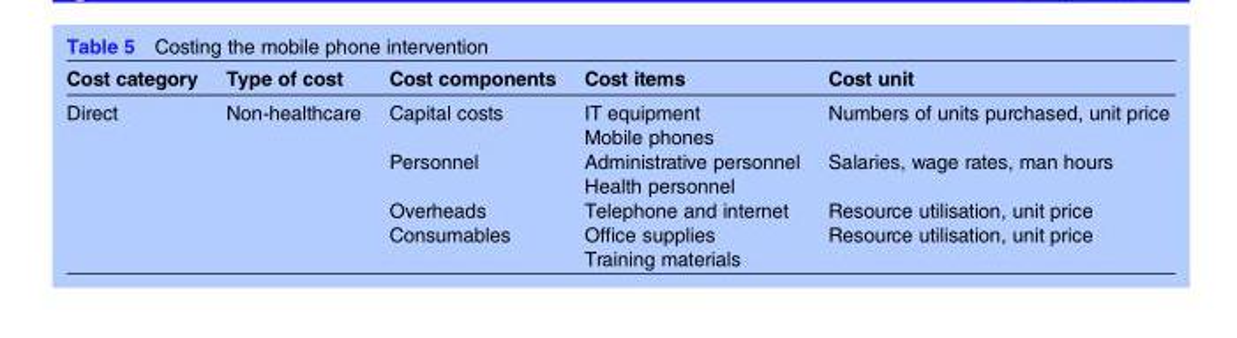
<table><thead><tr><td>Cost category</td><td>Type of cost</td><td>Cost components</td><td>Cost items</td><td>Cost unit</td></tr></thead><tbody><tr><td rowspan="4">Direct</td><td>Non-healthcare</td><td>Capital costs</td><td>IT equipment Mobile phones</td><td>Numbers of units purchased, unit price</td></tr><tr><td></td><td>Personnel</td><td>Administrative personnel Health personnel</td><td>Salaries, wage rates, man hours</td></tr><tr><td></td><td>Overheads</td><td>Telephone and internet</td><td>Resource utilisation, unit price</td></tr><tr><td></td><td>Consumables</td><td>Office supplies Training materials</td><td>Resource utilisation, unit price</td></tr></tbody></table>